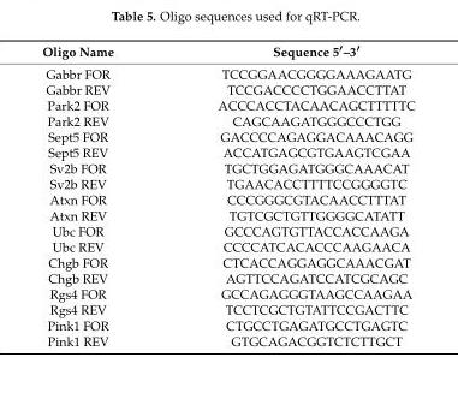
<table><thead><tr><td>Oligo Name</td><td>Sequence 5′–3′</td></tr></thead><tbody><tr><td>Gabbr FOR</td><td>TCCGGAACGGGGAAAGAATG</td></tr><tr><td>Gabbr REV</td><td>TCCGACCCCTGGAACCTTAT</td></tr><tr><td>Park2 FOR</td><td>ACCCACCTACAACAGCTTTTTC</td></tr><tr><td>Park2 REV</td><td>CAGCAAGATGGGCCCTGG</td></tr><tr><td>Sept5 FOR</td><td>GACCCCAGAGGACAAACAGG</td></tr><tr><td>Sept5 REV</td><td>ACCATGAGCGTGAAGTCGAA</td></tr><tr><td>Sv2b FOR</td><td>TGCTGGAGATGGGCAAACAT</td></tr><tr><td>Sv2b REV</td><td>TGAACACCTTTTCCGGGGTC</td></tr><tr><td>Atxn FOR</td><td>CCCGGGCGTACAACCTTTAT</td></tr><tr><td>Atxn REV</td><td>TGTCGCTGTTGGGGCATATT</td></tr><tr><td>Ubc FOR</td><td>GCCCAGTGTTACCACCAAGA</td></tr><tr><td>Ubc REV</td><td>CCCCATCACACCCAAGAACA</td></tr><tr><td>Chgb FOR</td><td>CTCACCAGGAGGCAAACGAT</td></tr><tr><td>Chgb REV</td><td>AGTTCCAGATCCATCGCAGC</td></tr><tr><td>Rgs4 FOR</td><td>GCCAGAGGGTAAGCCAAGAA</td></tr><tr><td>Rgs4 REV</td><td>TCCTCGCTGTATTCCGACTTC</td></tr><tr><td>Pink1 FOR</td><td>CTGCCTGAGATGCCTGAGTC</td></tr><tr><td>Pink1 REV</td><td>GTGCAGACGGTCTCTTGCT</td></tr></tbody></table>